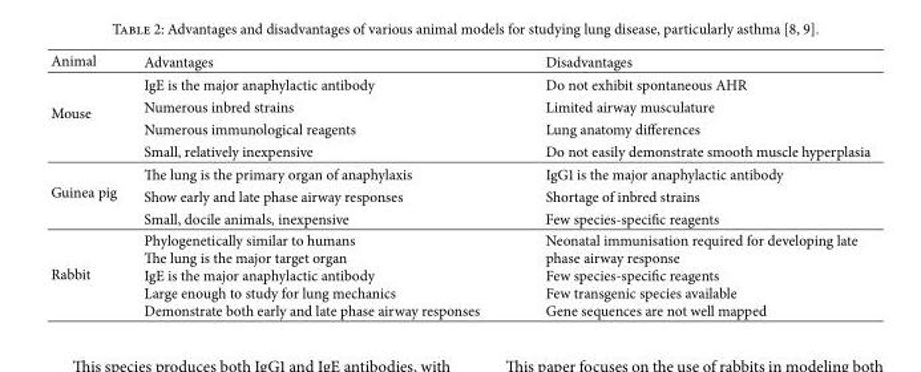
<table><thead><tr><td>Animal</td><td>Advantages</td><td>Disadvantages</td></tr></thead><tbody><tr><td rowspan="4">Mouse</td><td>IgE is the major anaphylactic antibody</td><td>Do not exhibit spontaneous AHR</td></tr><tr><td>Numerous inbred strains</td><td>Limited airway musculature</td></tr><tr><td>Numerous immunological reagents</td><td>Lung anatomy differences</td></tr><tr><td>Small, relatively inexpensive</td><td>Do not easily demonstrate smooth muscle hyperplasia</td></tr><tr><td rowspan="3">Guinea pig</td><td>The lung is the primary organ of anaphylaxis</td><td>IgG1 is the major anaphylactic antibody</td></tr><tr><td>Show early and late phase airway responses</td><td>Shortage of inbred strains</td></tr><tr><td>Small, docile animals, inexpensive</td><td>Few species-specific reagents</td></tr><tr><td>Rabbit</td><td>Phylogenetically similar to humans The lung is the major target organ IgE is the major anaphylactic antibody Large enough to study for lung mechanics Demonstrate both early and late phase airway responses</td><td>Neonatal immunisation required for developing late phase airway response Few species-specific reagents Few transgenic species available Gene sequences are not well mapped</td></tr></tbody></table>